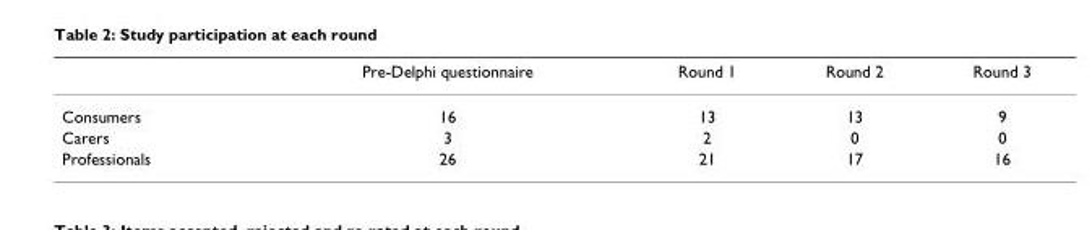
<table><thead><tr><td></td><td>Pre-Delphi questionnaire</td><td>Round 1</td><td>Round 2</td><td>Round 3</td></tr></thead><tbody><tr><td>Consumers</td><td>16</td><td>13</td><td>13</td><td>9</td></tr><tr><td>Carers</td><td>3</td><td>2</td><td>0</td><td>0</td></tr><tr><td>Professionals</td><td>26</td><td>21</td><td>17</td><td>16</td></tr></tbody></table>